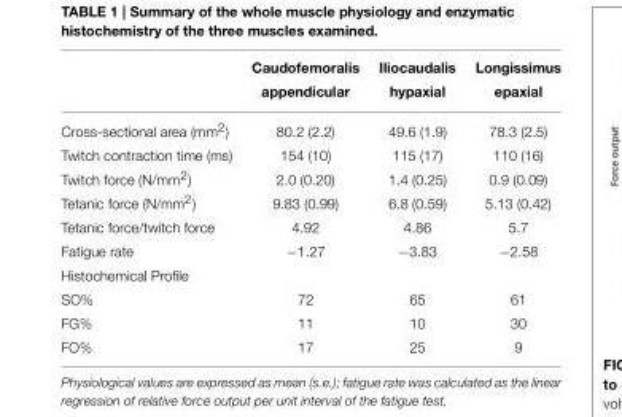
<table><thead><tr><td></td><td>Caudofemoralis appendicular</td><td>Iliocaudalis hypaxial</td><td>Longissimus epaxial</td></tr></thead><tbody><tr><td>Cross-sectional area (mm<sup>2</sup>)</td><td>80.2 (2.2)</td><td>49.6 (1.9)</td><td>78.3 (2.5)</td></tr><tr><td>Twitch contraction time (ms)</td><td>154 (10)</td><td>115 (17)</td><td>110 (16)</td></tr><tr><td>Twitch force (N/mm<sup>2</sup>)</td><td>2.0 (0.20)</td><td>1.4 (0.25)</td><td>0.9 (0.09)</td></tr><tr><td>Tetanic force (N/mm<sup>2</sup>)</td><td>9.83 (0.99)</td><td>6.8 (0.59)</td><td>5.13 (0.42)</td></tr><tr><td>Tetanic force/twitch force</td><td>4.92</td><td>4.86</td><td>5.7</td></tr><tr><td>Fatigue rate</td><td>−1.27</td><td>−3.83</td><td>−2.58</td></tr><tr><td colspan="4">Histochemical Profile</td></tr><tr><td>SO%</td><td>72</td><td>65</td><td>61</td></tr><tr><td>FG%</td><td>11</td><td>10</td><td>30</td></tr><tr><td>FO%</td><td>17</td><td>25</td><td>9</td></tr></tbody></table>